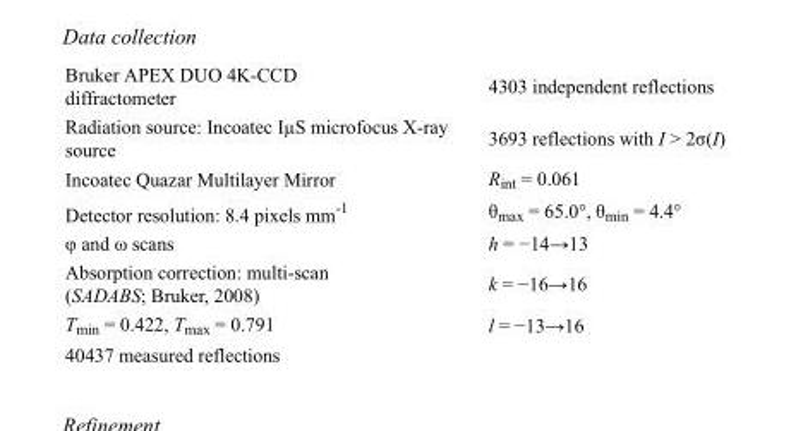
<table><tbody><tr><td>Bruker APEX DUO 4K-CCD diffractometer</td><td>4303 independent reflections</td></tr><tr><td>Radiation source: Incoatec IµS microfocus X-ray source</td><td>3693 reflections with I &gt; 2σ(I)</td></tr><tr><td>Incoatec Quazar Multilayer Mirror</td><td>R<sub>int</sub> = 0.061</td></tr><tr><td>Detector resolution: 8.4 pixels mm<sup>-1</sup></td><td>θ<sub>max</sub> = 65.0°, θ<sub>min</sub> = 4.4°</td></tr><tr><td>φ and ω scans</td><td>h = −14→13</td></tr><tr><td>Absorption correction: multi-scan (SADABS; Bruker, 2008)</td><td>k = −16→16</td></tr><tr><td>T<sub>min</sub> = 0.422, T<sub>max</sub> = 0.791</td><td>l = −13→16</td></tr><tr><td>40437 measured reflections</td><td></td></tr></tbody></table>